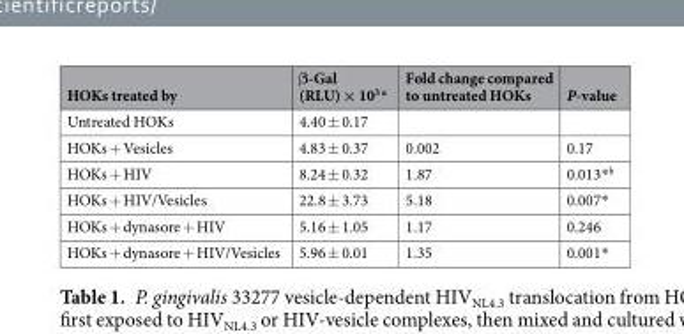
<table><thead><tr><td>HOKs treated by</td><td>β-Gal (RLU) × 10<sup>3 a</sup></td><td>Fold change compared to untreated HOKs</td><td>P-value</td></tr></thead><tbody><tr><td>Untreated HOKs</td><td>4.40 ± 0.17</td><td></td><td></td></tr><tr><td>HOKs + Vesicles</td><td>4.83 ± 0.37</td><td>0.002</td><td>0.17</td></tr><tr><td>HOKs + HIV</td><td>8.24 ± 0.32</td><td>1.87</td><td>0.013*<sup>b</sup></td></tr><tr><td>HOKs + HIV/Vesicles</td><td>22.8 ± 3.73</td><td>5.18</td><td>0.007*</td></tr><tr><td>HOKs + dynasore + HIV</td><td>5.16 ± 1.05</td><td>1.17</td><td>0.246</td></tr><tr><td>HOKs + dynasore + HIV/Vesicles</td><td>5.96 ± 0.01</td><td>1.35</td><td>0.001*</td></tr></tbody></table>